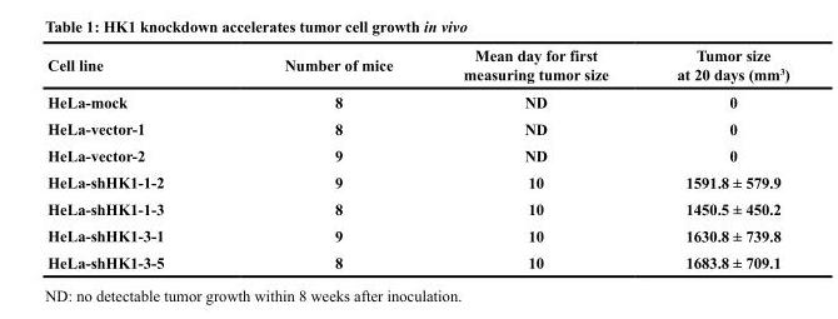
<table><thead><tr><td>Cell line</td><td>Number of mice</td><td>Mean day for first measuring tumor size</td><td>Tumor size at 20 days (mm<sup>3</sup>)</td></tr></thead><tbody><tr><td>HeLa-mock</td><td>8</td><td>ND</td><td>0</td></tr><tr><td>HeLa-vector-1</td><td>8</td><td>ND</td><td>0</td></tr><tr><td>HeLa-vector-2</td><td>9</td><td>ND</td><td>0</td></tr><tr><td>HeLa-shHK1-1-2</td><td>9</td><td>10</td><td>1591.8 ± 579.9</td></tr><tr><td>HeLa-shHK1-1-3</td><td>8</td><td>10</td><td>1450.5 ± 450.2</td></tr><tr><td>HeLa-shHK1-3-1</td><td>9</td><td>10</td><td>1630.8 ± 739.8</td></tr><tr><td>HeLa-shHK1-3-5</td><td>8</td><td>10</td><td>1683.8 ± 709.1</td></tr></tbody></table>